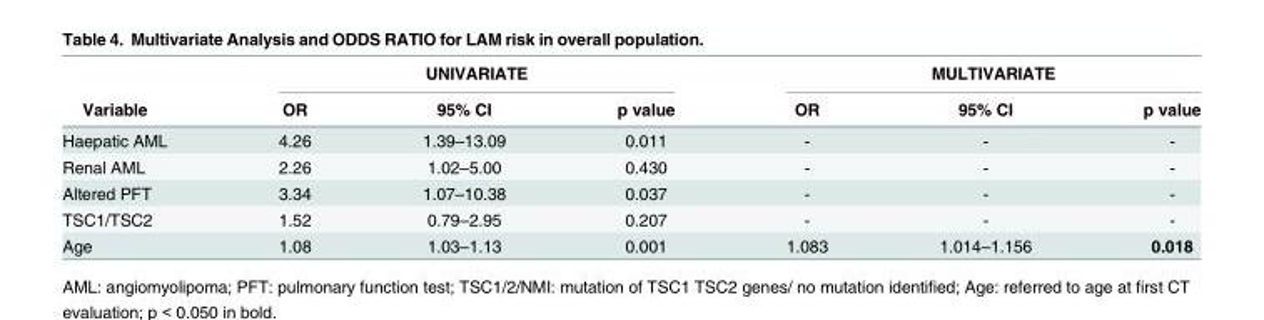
<table><thead><tr><td rowspan="2">Variable</td><td colspan="3">UNIVARIATE</td><td colspan="3">MULTIVARIATE</td></tr><tr><td>OR</td><td>95% CI</td><td>p value</td><td>OR</td><td>95% CI</td><td>p value</td></tr></thead><tbody><tr><td>Haepatic AML</td><td>4.26</td><td>1.39–13.09</td><td>0.011</td><td>-</td><td>-</td><td>-</td></tr><tr><td>Renal AML</td><td>2.26</td><td>1.02–5.00</td><td>0.430</td><td>-</td><td>-</td><td>-</td></tr><tr><td>Altered PFT</td><td>3.34</td><td>1.07–10.38</td><td>0.037</td><td>-</td><td>-</td><td>-</td></tr><tr><td>TSC1/TSC2</td><td>1.52</td><td>0.79–2.95</td><td>0.207</td><td>-</td><td>-</td><td>-</td></tr><tr><td>Age</td><td>1.08</td><td>1.03–1.13</td><td>0.001</td><td>1.083</td><td>1.014–1.156</td><td>0.018</td></tr></tbody></table>